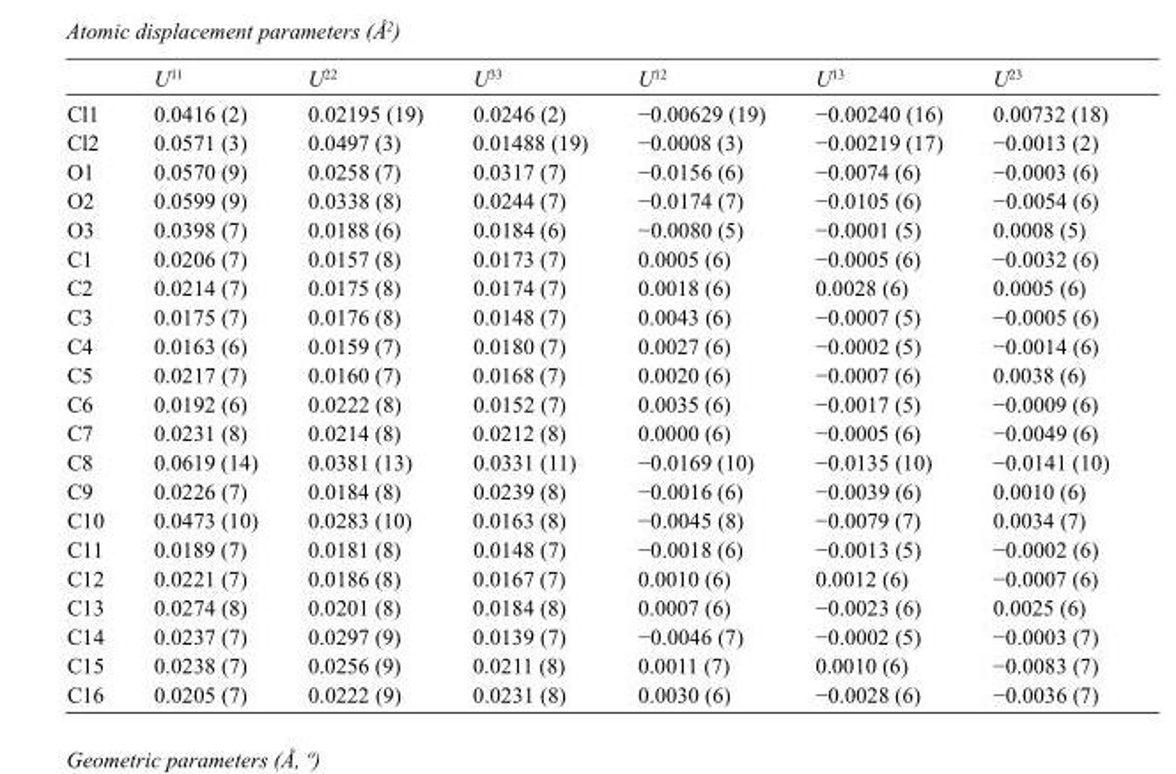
<table><thead><tr><td></td><td>U<sup>11</sup></td><td>U<sup>22</sup></td><td>U<sup>33</sup></td><td>U<sup>12</sup></td><td>U<sup>13</sup></td><td>U<sup>23</sup></td></tr></thead><tbody><tr><td>Cl1</td><td>0.0416 (2)</td><td>0.02195 (19)</td><td>0.0246 (2)</td><td>−0.00629 (19)</td><td>−0.00240 (16)</td><td>0.00732 (18)</td></tr><tr><td>Cl2</td><td>0.0571 (3)</td><td>0.0497 (3)</td><td>0.01488 (19)</td><td>−0.0008 (3)</td><td>−0.00219 (17)</td><td>−0.0013 (2)</td></tr><tr><td>O1</td><td>0.0570 (9)</td><td>0.0258 (7)</td><td>0.0317 (7)</td><td>−0.0156 (6)</td><td>−0.0074 (6)</td><td>−0.0003 (6)</td></tr><tr><td>O2</td><td>0.0599 (9)</td><td>0.0338 (8)</td><td>0.0244 (7)</td><td>−0.0174 (7)</td><td>−0.0105 (6)</td><td>−0.0054 (6)</td></tr><tr><td>O3</td><td>0.0398 (7)</td><td>0.0188 (6)</td><td>0.0184 (6)</td><td>−0.0080 (5)</td><td>−0.0001 (5)</td><td>0.0008 (5)</td></tr><tr><td>C1</td><td>0.0206 (7)</td><td>0.0157 (8)</td><td>0.0173 (7)</td><td>0.0005 (6)</td><td>−0.0005 (6)</td><td>−0.0032 (6)</td></tr><tr><td>C2</td><td>0.0214 (7)</td><td>0.0175 (8)</td><td>0.0174 (7)</td><td>0.0018 (6)</td><td>0.0028 (6)</td><td>0.0005 (6)</td></tr><tr><td>C3</td><td>0.0175 (7)</td><td>0.0176 (8)</td><td>0.0148 (7)</td><td>0.0043 (6)</td><td>−0.0007 (5)</td><td>−0.0005 (6)</td></tr><tr><td>C4</td><td>0.0163 (6)</td><td>0.0159 (7)</td><td>0.0180 (7)</td><td>0.0027 (6)</td><td>−0.0002 (5)</td><td>−0.0014 (6)</td></tr><tr><td>C5</td><td>0.0217 (7)</td><td>0.0160 (7)</td><td>0.0168 (7)</td><td>0.0020 (6)</td><td>−0.0007 (6)</td><td>0.0038 (6)</td></tr><tr><td>C6</td><td>0.0192 (6)</td><td>0.0222 (8)</td><td>0.0152 (7)</td><td>0.0035 (6)</td><td>−0.0017 (5)</td><td>−0.0009 (6)</td></tr><tr><td>C7</td><td>0.0231 (8)</td><td>0.0214 (8)</td><td>0.0212 (8)</td><td>0.0000 (6)</td><td>−0.0005 (6)</td><td>−0.0049 (6)</td></tr><tr><td>C8</td><td>0.0619 (14)</td><td>0.0381 (13)</td><td>0.0331 (11)</td><td>−0.0169 (10)</td><td>−0.0135 (10)</td><td>−0.0141 (10)</td></tr><tr><td>C9</td><td>0.0226 (7)</td><td>0.0184 (8)</td><td>0.0239 (8)</td><td>−0.0016 (6)</td><td>−0.0039 (6)</td><td>0.0010 (6)</td></tr><tr><td>C10</td><td>0.0473 (10)</td><td>0.0283 (10)</td><td>0.0163 (8)</td><td>−0.0045 (8)</td><td>−0.0079 (7)</td><td>0.0034 (7)</td></tr><tr><td>C11</td><td>0.0189 (7)</td><td>0.0181 (8)</td><td>0.0148 (7)</td><td>−0.0018 (6)</td><td>−0.0013 (5)</td><td>−0.0002 (6)</td></tr><tr><td>C12</td><td>0.0221 (7)</td><td>0.0186 (8)</td><td>0.0167 (7)</td><td>0.0010 (6)</td><td>0.0012 (6)</td><td>−0.0007 (6)</td></tr><tr><td>C13</td><td>0.0274 (8)</td><td>0.0201 (8)</td><td>0.0184 (8)</td><td>0.0007 (6)</td><td>−0.0023 (6)</td><td>0.0025 (6)</td></tr><tr><td>C14</td><td>0.0237 (7)</td><td>0.0297 (9)</td><td>0.0139 (7)</td><td>−0.0046 (7)</td><td>−0.0002 (5)</td><td>−0.0003 (7)</td></tr><tr><td>C15</td><td>0.0238 (7)</td><td>0.0256 (9)</td><td>0.0211 (8)</td><td>0.0011 (7)</td><td>0.0010 (6)</td><td>−0.0083 (7)</td></tr><tr><td>C16</td><td>0.0205 (7)</td><td>0.0222 (9)</td><td>0.0231 (8)</td><td>0.0030 (6)</td><td>−0.0028 (6)</td><td>−0.0036 (7)</td></tr></tbody></table>